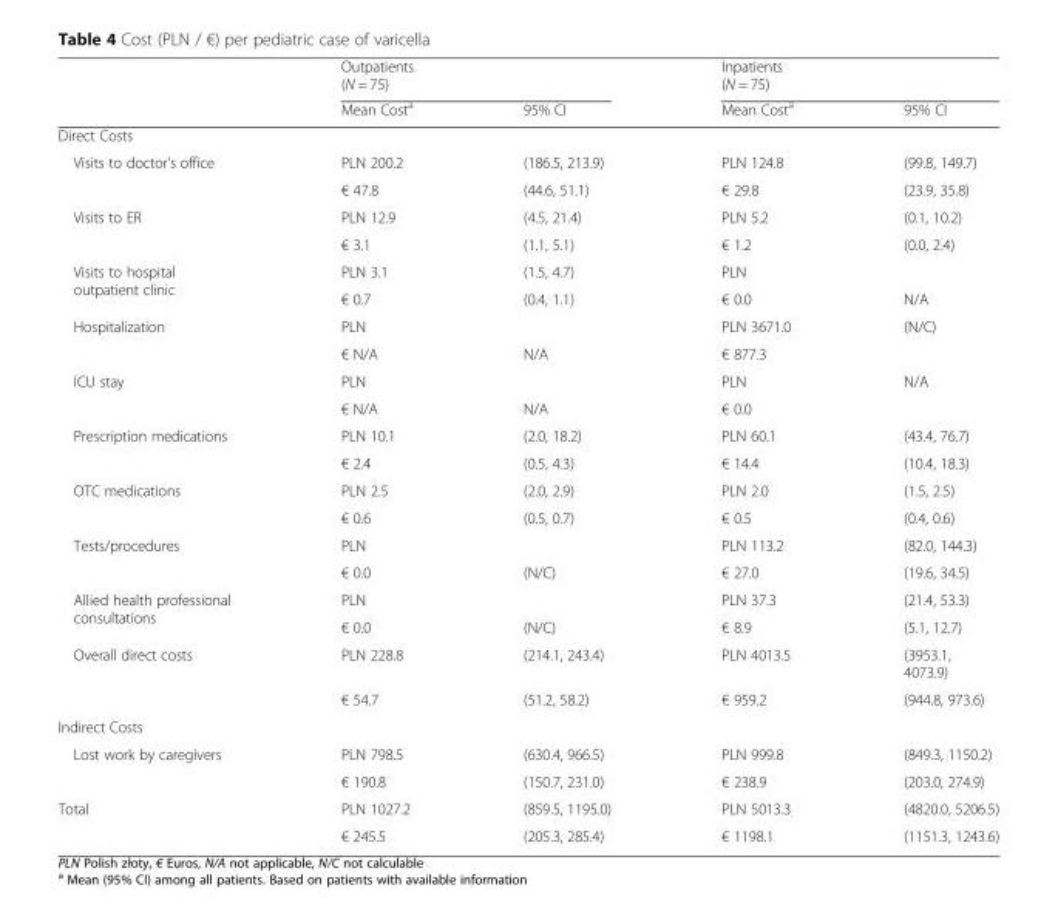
<table><thead><tr><td rowspan="2"></td><td colspan="2">Outpatients (N = 75)</td><td colspan="2">Inpatients (N = 75)</td></tr><tr><td>Mean Cost<sup>a</sup></td><td>95% CI</td><td>Mean Cost<sup>a</sup></td><td>95% CI</td></tr></thead><tbody><tr><td colspan="5">Direct Costs</td></tr><tr><td rowspan="2">Visits to doctor’s office</td><td>PLN 200.2</td><td>(186.5, 213.9)</td><td>PLN 124.8</td><td>(99.8, 149.7)</td></tr><tr><td>€ 47.8</td><td>(44.6, 51.1)</td><td>€ 29.8</td><td>(23.9, 35.8)</td></tr><tr><td rowspan="2">Visits to ER</td><td>PLN 12.9</td><td>(4.5, 21.4)</td><td>PLN 5.2</td><td>(0.1, 10.2)</td></tr><tr><td>€ 3.1</td><td>(1.1, 5.1)</td><td>€ 1.2</td><td>(0.0, 2.4)</td></tr><tr><td rowspan="2">Visits to hospital outpatient clinic</td><td>PLN 3.1</td><td>(1.5, 4.7)</td><td>PLN</td><td></td></tr><tr><td>€ 0.7</td><td>(0.4, 1.1)</td><td>€ 0.0</td><td>N/A</td></tr><tr><td rowspan="2">Hospitalization</td><td>PLN</td><td></td><td>PLN 3671.0</td><td>(N/C)</td></tr><tr><td>€ N/A</td><td>N/A</td><td>€ 877.3</td><td></td></tr><tr><td rowspan="2">ICU stay</td><td>PLN</td><td></td><td>PLN</td><td>N/A</td></tr><tr><td>€ N/A</td><td>N/A</td><td>€ 0.0</td><td></td></tr><tr><td rowspan="2">Prescription medications</td><td>PLN 10.1</td><td>(2.0, 18.2)</td><td>PLN 60.1</td><td>(43.4, 76.7)</td></tr><tr><td>€ 2.4</td><td>(0.5, 4.3)</td><td>€ 14.4</td><td>(10.4, 18.3)</td></tr><tr><td rowspan="2">OTC medications</td><td>PLN 2.5</td><td>(2.0, 2.9)</td><td>PLN 2.0</td><td>(1.5, 2.5)</td></tr><tr><td>€ 0.6</td><td>(0.5, 0.7)</td><td>€ 0.5</td><td>(0.4, 0.6)</td></tr><tr><td rowspan="2">Tests/procedures</td><td>PLN</td><td></td><td>PLN 113.2</td><td>(82.0, 144.3)</td></tr><tr><td>€ 0.0</td><td>(N/C)</td><td>€ 27.0</td><td>(19.6, 34.5)</td></tr><tr><td rowspan="2">Allied health professional consultations</td><td>PLN</td><td></td><td>PLN 37.3</td><td>(21.4, 53.3)</td></tr><tr><td>€ 0.0</td><td>(N/C)</td><td>€ 8.9</td><td>(5.1, 12.7)</td></tr><tr><td rowspan="2">Overall direct costs</td><td>PLN 228.8</td><td>(214.1, 243.4)</td><td>PLN 4013.5</td><td>(3953.1, 4073.9)</td></tr><tr><td>€ 54.7</td><td>(51.2, 58.2)</td><td>€ 959.2</td><td>(944.8, 973.6)</td></tr><tr><td colspan="5">Indirect Costs</td></tr><tr><td rowspan="2">Lost work by caregivers</td><td>PLN 798.5</td><td>(630.4, 966.5)</td><td>PLN 999.8</td><td>(849.3, 1150.2)</td></tr><tr><td>€ 190.8</td><td>(150.7, 231.0)</td><td>€ 238.9</td><td>(203.0, 274.9)</td></tr><tr><td rowspan="2">Total</td><td>PLN 1027.2</td><td>(859.5, 1195.0)</td><td>PLN 5013.3</td><td>(4820.0, 5206.5)</td></tr><tr><td>€ 245.5</td><td>(205.3, 285.4)</td><td>€ 1198.1</td><td>(1151.3, 1243.6)</td></tr></tbody></table>